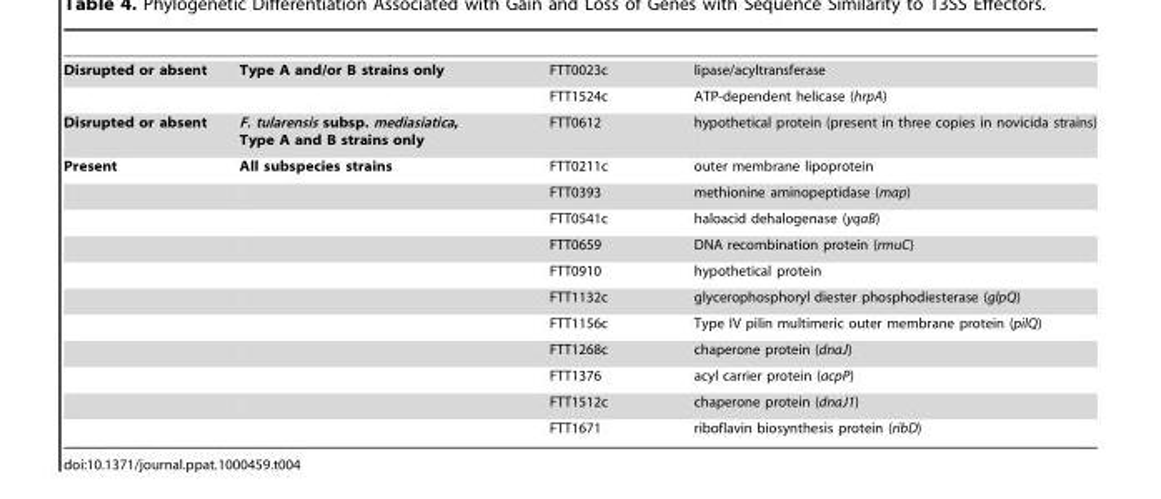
<table><tbody><tr><td rowspan="2">Disrupted or absent</td><td>Type A and/or B strains only</td><td>FTT0023c</td><td>lipase/acyltransferase</td></tr><tr><td></td><td>FTT1524c</td><td>ATP-dependent helicase (hrpA)</td></tr><tr><td>Disrupted or absent</td><td>F. tularensis subsp. mediasiatica, Type A and B strains only</td><td>FTT0612</td><td>hypothetical protein (present in three copies in novicida strains)</td></tr><tr><td rowspan="11">Present</td><td>All subspecies strains</td><td>FTT0211c</td><td>outer membrane lipoprotein</td></tr><tr><td></td><td>FTT0393</td><td>methionine aminopeptidase (map)</td></tr><tr><td></td><td>FTT0541c</td><td>haloacid dehalogenase (yqaB)</td></tr><tr><td></td><td>FTT0659</td><td>DNA recombination protein (rmuC)</td></tr><tr><td></td><td>FTT0910</td><td>hypothetical protein</td></tr><tr><td></td><td>FTT1132c</td><td>glycerophosphoryl diester phosphodiesterase (glpQ)</td></tr><tr><td></td><td>FTT1156c</td><td>Type IV pilin multimeric outer membrane protein (pilQ)</td></tr><tr><td></td><td>FTT1268c</td><td>chaperone protein (dnaJ)</td></tr><tr><td></td><td>FTT1376</td><td>acyl carrier protein (acpP)</td></tr><tr><td></td><td>FTT1512c</td><td>chaperone protein (dnaJ1)</td></tr><tr><td></td><td>FTT1671</td><td>riboflavin biosynthesis protein (ribD)</td></tr></tbody></table>